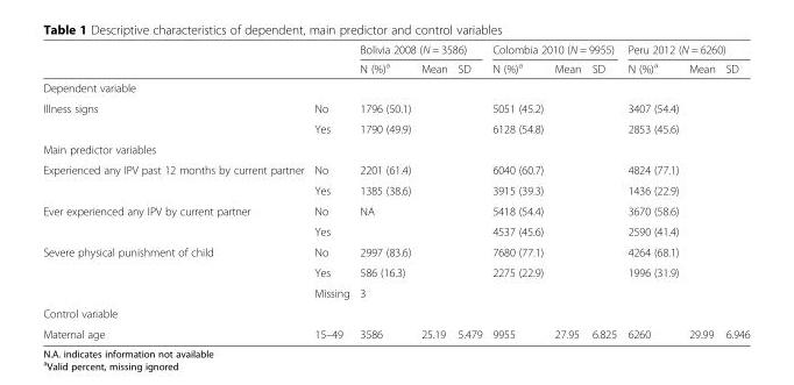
<table><thead><tr><td rowspan="2"></td><td rowspan="2"></td><td colspan="3">Bolivia 2008 (N = 3586)</td><td colspan="3">Colombia 2010 (N = 9955)</td><td colspan="3">Peru 2012 (N = 6260)</td></tr><tr><td>N (%)<sup>a</sup></td><td>Mean</td><td>SD</td><td>N (%)<sup>a</sup></td><td>Mean</td><td>SD</td><td>N (%)<sup>a</sup></td><td>Mean</td><td>SD</td></tr></thead><tbody><tr><td colspan="11">Dependent variable</td></tr><tr><td rowspan="2">Illness signs</td><td>No</td><td>1796 (50.1)</td><td></td><td></td><td>5051 (45.2)</td><td></td><td></td><td>3407 (54.4)</td><td></td><td></td></tr><tr><td>Yes</td><td>1790 (49.9)</td><td></td><td></td><td>6128 (54.8)</td><td></td><td></td><td>2853 (45.6)</td><td></td><td></td></tr><tr><td colspan="11">Main predictor variables</td></tr><tr><td rowspan="2">Experienced any IPV past 12 months by current partner</td><td>No</td><td>2201 (61.4)</td><td></td><td></td><td>6040 (60.7)</td><td></td><td></td><td>4824 (77.1)</td><td></td><td></td></tr><tr><td>Yes</td><td>1385 (38.6)</td><td></td><td></td><td>3915 (39.3)</td><td></td><td></td><td>1436 (22.9)</td><td></td><td></td></tr><tr><td rowspan="2">Ever experienced any IPV by current partner</td><td>No</td><td rowspan="2">NA</td><td></td><td></td><td>5418 (54.4)</td><td></td><td></td><td>3670 (58.6)</td><td></td><td></td></tr><tr><td>Yes</td><td></td><td></td><td>4537 (45.6)</td><td></td><td></td><td>2590 (41.4)</td><td></td><td></td></tr><tr><td rowspan="3">Severe physical punishment of child</td><td>No</td><td>2997 (83.6)</td><td></td><td></td><td>7680 (77.1)</td><td></td><td></td><td>4264 (68.1)</td><td></td><td></td></tr><tr><td>Yes</td><td>586 (16.3)</td><td></td><td></td><td>2275 (22.9)</td><td></td><td></td><td>1996 (31.9)</td><td></td><td></td></tr><tr><td>Missing</td><td>3</td><td></td><td></td><td></td><td></td><td></td><td></td><td></td><td></td></tr><tr><td colspan="11">Control variable</td></tr><tr><td>Maternal age</td><td>15–49</td><td>3586</td><td>25.19</td><td>5.479</td><td>9955</td><td>27.95</td><td>6.825</td><td>6260</td><td>29.99</td><td>6.946</td></tr></tbody></table>